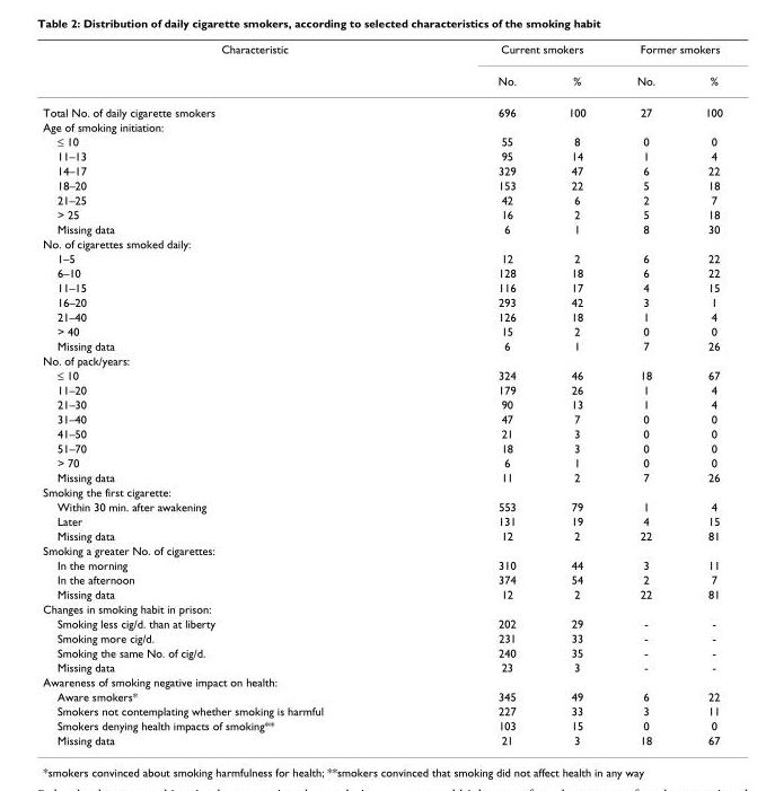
<table><thead><tr><td rowspan="2">Characteristic</td><td colspan="2">Current smokers</td><td colspan="2">Former smokers</td></tr><tr><td>No.</td><td>%</td><td>No.</td><td>%</td></tr></thead><tbody><tr><td>Total No. of daily cigarette smokers</td><td>696</td><td>100</td><td>27</td><td>100</td></tr><tr><td colspan="5">Age of smoking initiation:</td></tr><tr><td>≤ 10</td><td>55</td><td>8</td><td>0</td><td>0</td></tr><tr><td>11–13</td><td>95</td><td>14</td><td>1</td><td>4</td></tr><tr><td>14–17</td><td>329</td><td>47</td><td>6</td><td>22</td></tr><tr><td>18–20</td><td>153</td><td>22</td><td>5</td><td>18</td></tr><tr><td>21–25</td><td>42</td><td>6</td><td>2</td><td>7</td></tr><tr><td>&gt; 25</td><td>16</td><td>2</td><td>5</td><td>18</td></tr><tr><td>Missing data</td><td>6</td><td>1</td><td>8</td><td>30</td></tr><tr><td colspan="5">No. of cigarettes smoked daily:</td></tr><tr><td>1–5</td><td>12</td><td>2</td><td>6</td><td>22</td></tr><tr><td>6–10</td><td>128</td><td>18</td><td>6</td><td>22</td></tr><tr><td>11–15</td><td>116</td><td>17</td><td>4</td><td>15</td></tr><tr><td>16–20</td><td>293</td><td>42</td><td>3</td><td>1</td></tr><tr><td>21–40</td><td>126</td><td>18</td><td>1</td><td>4</td></tr><tr><td>&gt; 40</td><td>15</td><td>2</td><td>0</td><td>0</td></tr><tr><td>Missing data</td><td>6</td><td>1</td><td>7</td><td>26</td></tr><tr><td colspan="5">No. of pack/years:</td></tr><tr><td>≤ 10</td><td>324</td><td>46</td><td>18</td><td>67</td></tr><tr><td>11–20</td><td>179</td><td>26</td><td>1</td><td>4</td></tr><tr><td>21–30</td><td>90</td><td>13</td><td>1</td><td>4</td></tr><tr><td>31–40</td><td>47</td><td>7</td><td>0</td><td>0</td></tr><tr><td>41–50</td><td>21</td><td>3</td><td>0</td><td>0</td></tr><tr><td>51–70</td><td>18</td><td>3</td><td>0</td><td>0</td></tr><tr><td>&gt; 70</td><td>6</td><td>1</td><td>0</td><td>0</td></tr><tr><td>Missing data</td><td>11</td><td>2</td><td>7</td><td>26</td></tr><tr><td colspan="5">Smoking the first cigarette:</td></tr><tr><td>Within 30 min. after awakening</td><td>553</td><td>79</td><td>1</td><td>4</td></tr><tr><td>Later</td><td>131</td><td>19</td><td>4</td><td>15</td></tr><tr><td>Missing data</td><td>12</td><td>2</td><td>22</td><td>81</td></tr><tr><td colspan="5">Smoking a greater No. of cigarettes:</td></tr><tr><td>In the morning</td><td>310</td><td>44</td><td>3</td><td>11</td></tr><tr><td>In the afternoon</td><td>374</td><td>54</td><td>2</td><td>7</td></tr><tr><td>Missing data</td><td>12</td><td>2</td><td>22</td><td>81</td></tr><tr><td colspan="5">Changes in smoking habit in prison:</td></tr><tr><td>Smoking less cig/d. than at liberty</td><td>202</td><td>29</td><td>-</td><td>-</td></tr><tr><td>Smoking more cig/d.</td><td>231</td><td>33</td><td>-</td><td>-</td></tr><tr><td>Smoking the same No. of cig/d.</td><td>240</td><td>35</td><td>-</td><td>-</td></tr><tr><td>Missing data</td><td>23</td><td>3</td><td>-</td><td>-</td></tr><tr><td colspan="5">Awareness of smoking negative impact on health:</td></tr><tr><td>Aware smokers*</td><td>345</td><td>49</td><td>6</td><td>22</td></tr><tr><td>Smokers not contemplating whether smoking is harmful</td><td>227</td><td>33</td><td>3</td><td>11</td></tr><tr><td>Smokers denying health impacts of smoking**</td><td>103</td><td>15</td><td>0</td><td>0</td></tr><tr><td>Missing data</td><td>21</td><td>3</td><td>18</td><td>67</td></tr></tbody></table>